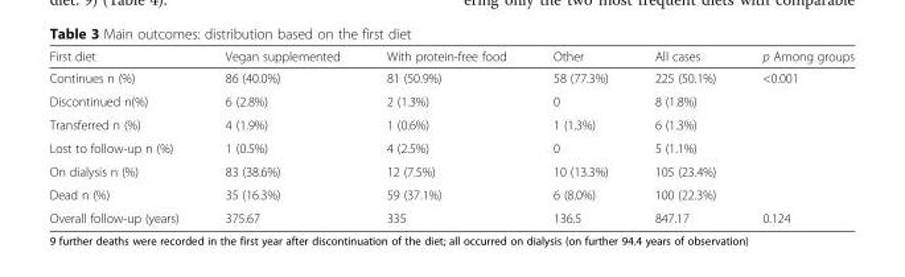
<table><thead><tr><td>First diet</td><td>Vegan supplemented</td><td>With protein-free food</td><td>Other</td><td>All cases</td><td>p Among groups</td></tr></thead><tbody><tr><td>Continues n (%)</td><td>86 (40.0%)</td><td>81 (50.9%)</td><td>58 (77.3%)</td><td>225 (50.1%)</td><td rowspan="6">&lt;0.001</td></tr><tr><td>Discontinued n(%)</td><td>6 (2.8%)</td><td>2 (1.3%)</td><td>0</td><td>8 (1.8%)</td></tr><tr><td>Transferred n (%)</td><td>4 (1.9%)</td><td>1 (0.6%)</td><td>1 (1.3%)</td><td>6 (1.3%)</td></tr><tr><td>Lost to follow-up n (%)</td><td>1 (0.5%)</td><td>4 (2.5%)</td><td>0</td><td>5 (1.1%)</td></tr><tr><td>On dialysis n (%)</td><td>83 (38.6%)</td><td>12 (7.5%)</td><td>10 (13.3%)</td><td>105 (23.4%)</td></tr><tr><td>Dead n (%)</td><td>35 (16.3%)</td><td>59 (37.1%)</td><td>6 (8.0%)</td><td>100 (22.3%)</td></tr><tr><td>Overall follow-up (years)</td><td>375.67</td><td>335</td><td>136.5</td><td>847.17</td><td>0.124</td></tr></tbody></table>